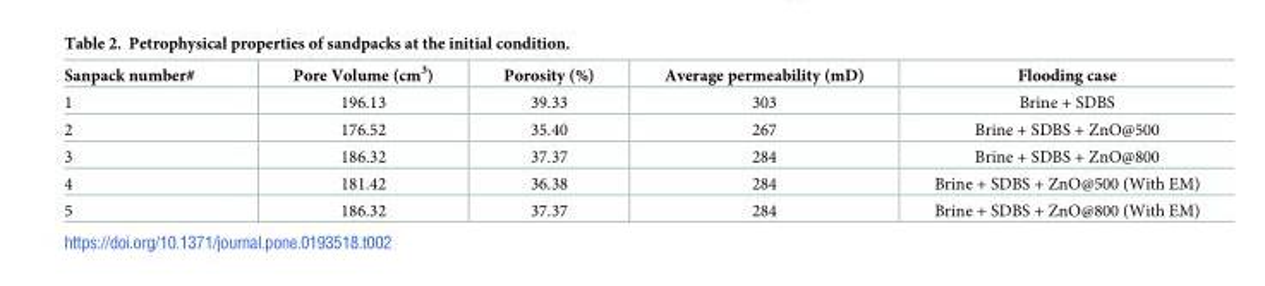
<table><thead><tr><td>Sanpack number#</td><td>Pore Volume (cm<sup>3</sup>)</td><td>Porosity (%)</td><td>Average permeability (mD)</td><td>Flooding case</td></tr></thead><tbody><tr><td>1</td><td>196.13</td><td>39.33</td><td>303</td><td>Brine + SDBS</td></tr><tr><td>2</td><td>176.52</td><td>35.40</td><td>267</td><td>Brine + SDBS + ZnO@500</td></tr><tr><td>3</td><td>186.32</td><td>37.37</td><td>284</td><td>Brine + SDBS + ZnO@800</td></tr><tr><td>4</td><td>181.42</td><td>36.38</td><td>284</td><td>Brine + SDBS + ZnO@500 (With EM)</td></tr><tr><td>5</td><td>186.32</td><td>37.37</td><td>284</td><td>Brine + SDBS + ZnO@800 (With EM)</td></tr></tbody></table>